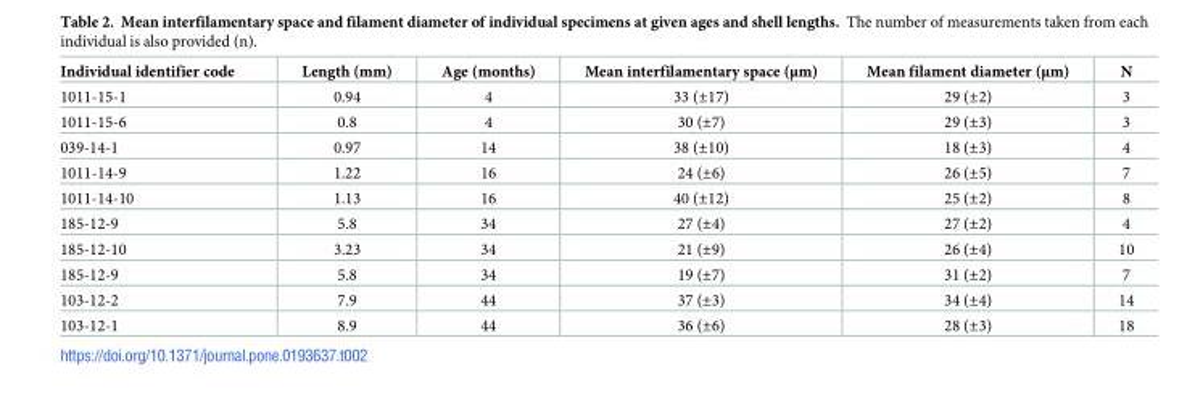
<table><thead><tr><td>Individual identifier code</td><td>Length (mm)</td><td>Age (months)</td><td>Mean interfilamentary space (μm)</td><td>Mean filament diameter (μm)</td><td>N</td></tr></thead><tbody><tr><td>1011-15-1</td><td>0.94</td><td>4</td><td>33 (±17)</td><td>29 (±2)</td><td>3</td></tr><tr><td>1011-15-6</td><td>0.8</td><td>4</td><td>30 (±7)</td><td>29 (±3)</td><td>3</td></tr><tr><td>039-14-1</td><td>0.97</td><td>14</td><td>38 (±10)</td><td>18 (±3)</td><td>4</td></tr><tr><td>1011-14-9</td><td>1.22</td><td>16</td><td>24 (±6)</td><td>26 (±5)</td><td>7</td></tr><tr><td>1011-14-10</td><td>1.13</td><td>16</td><td>40 (±12)</td><td>25 (±2)</td><td>8</td></tr><tr><td>185-12-9</td><td>5.8</td><td>34</td><td>27 (±4)</td><td>27 (±2)</td><td>4</td></tr><tr><td>185-12-10</td><td>3.23</td><td>34</td><td>21 (±9)</td><td>26 (±4)</td><td>10</td></tr><tr><td>185-12-9</td><td>5.8</td><td>34</td><td>19 (±7)</td><td>31 (±2)</td><td>7</td></tr><tr><td>103-12-2</td><td>7.9</td><td>44</td><td>37 (±3)</td><td>34 (±4)</td><td>14</td></tr><tr><td>103-12-1</td><td>8.9</td><td>44</td><td>36 (±6)</td><td>28 (±3)</td><td>18</td></tr></tbody></table>